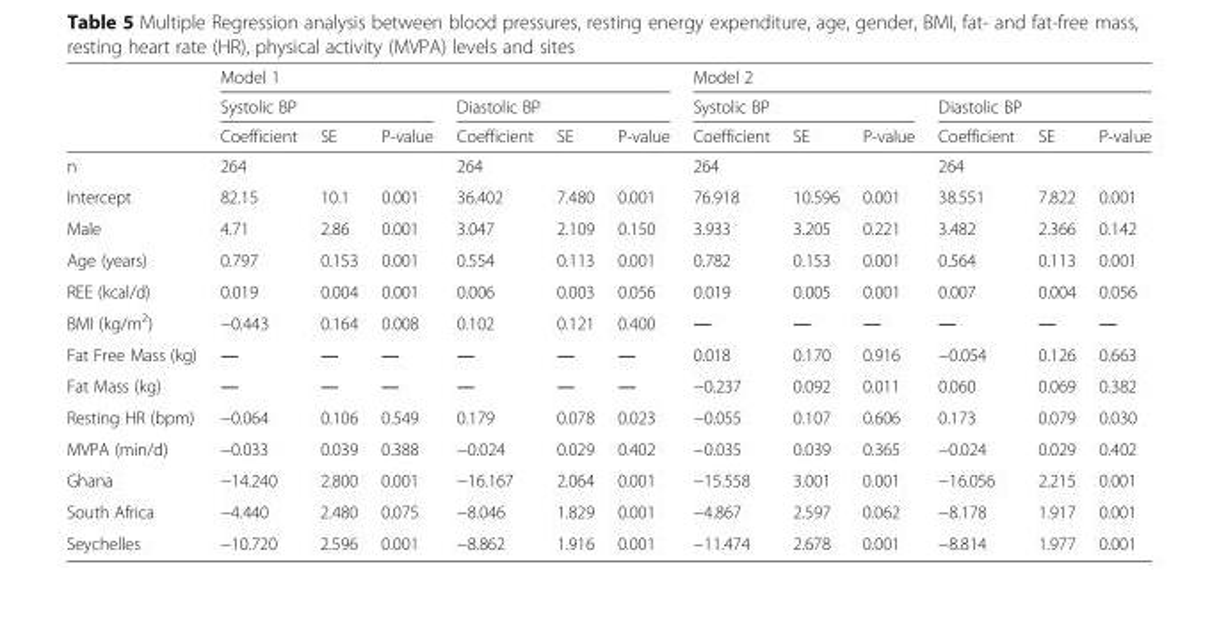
<table><thead><tr><td rowspan="3"></td><td colspan="6">Model 1</td><td colspan="6">Model 2</td></tr><tr><td colspan="3">Systolic BP</td><td colspan="3">Diastolic BP</td><td colspan="3">Systolic BP</td><td colspan="3">Diastolic BP</td></tr><tr><td>Coefficient</td><td>SE</td><td>P-value</td><td>Coefficient</td><td>SE</td><td>P-value</td><td>Coefficient</td><td>SE</td><td>P-value</td><td>Coefficient</td><td>SE</td><td>P-value</td></tr></thead><tbody><tr><td>n</td><td colspan="3">264</td><td colspan="3">264</td><td colspan="3">264</td><td colspan="3">264</td></tr><tr><td>Intercept</td><td>82.15</td><td>10.1</td><td>0.001</td><td>36.402</td><td>7.480</td><td>0.001</td><td>76.918</td><td>10.596</td><td>0.001</td><td>38.551</td><td>7.822</td><td>0.001</td></tr><tr><td>Male</td><td>4.71</td><td>2.86</td><td>0.001</td><td>3.047</td><td>2.109</td><td>0.150</td><td>3.933</td><td>3.205</td><td>0.221</td><td>3.482</td><td>2.366</td><td>0.142</td></tr><tr><td>Age (years)</td><td>0.797</td><td>0.153</td><td>0.001</td><td>0.554</td><td>0.113</td><td>0.001</td><td>0.782</td><td>0.153</td><td>0.001</td><td>0.564</td><td>0.113</td><td>0.001</td></tr><tr><td>REE (kcal/d)</td><td>0.019</td><td>0.004</td><td>0.001</td><td>0.006</td><td>0.003</td><td>0.056</td><td>0.019</td><td>0.005</td><td>0.001</td><td>0.007</td><td>0.004</td><td>0.056</td></tr><tr><td>BMI (kg/m<sup>2</sup>)</td><td>−0.443</td><td>0.164</td><td>0.008</td><td>0.102</td><td>0.121</td><td>0.400</td><td>―</td><td>―</td><td>―</td><td>―</td><td>―</td><td>―</td></tr><tr><td>Fat Free Mass (kg)</td><td>―</td><td>―</td><td>―</td><td>―</td><td>―</td><td>―</td><td>0.018</td><td>0.170</td><td>0.916</td><td>−0.054</td><td>0.126</td><td>0.663</td></tr><tr><td>Fat Mass (kg)</td><td>―</td><td>―</td><td>―</td><td>―</td><td>―</td><td>―</td><td>−0.237</td><td>0.092</td><td>0.011</td><td>0.060</td><td>0.069</td><td>0.382</td></tr><tr><td>Resting HR (bpm)</td><td>−0.064</td><td>0.106</td><td>0.549</td><td>0.179</td><td>0.078</td><td>0.023</td><td>−0.055</td><td>0.107</td><td>0.606</td><td>0.173</td><td>0.079</td><td>0.030</td></tr><tr><td>MVPA (min/d)</td><td>−0.033</td><td>0.039</td><td>0.388</td><td>−0.024</td><td>0.029</td><td>0.402</td><td>−0.035</td><td>0.039</td><td>0.365</td><td>−0.024</td><td>0.029</td><td>0.402</td></tr><tr><td>Ghana</td><td>−14.240</td><td>2.800</td><td>0.001</td><td>−16.167</td><td>2.064</td><td>0.001</td><td>−15.558</td><td>3.001</td><td>0.001</td><td>−16.056</td><td>2.215</td><td>0.001</td></tr><tr><td>South Africa</td><td>−4.440</td><td>2.480</td><td>0.075</td><td>−8.046</td><td>1.829</td><td>0.001</td><td>−4.867</td><td>2.597</td><td>0.062</td><td>−8.178</td><td>1.917</td><td>0.001</td></tr><tr><td>Seychelles</td><td>−10.720</td><td>2.596</td><td>0.001</td><td>−8.862</td><td>1.916</td><td>0.001</td><td>−11.474</td><td>2.678</td><td>0.001</td><td>−8.814</td><td>1.977</td><td>0.001</td></tr></tbody></table>